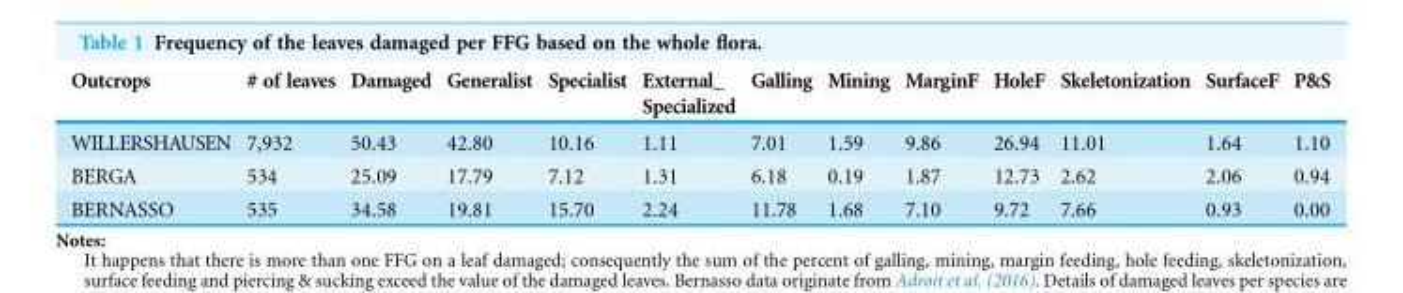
<table><thead><tr><td>Outcrops</td><td># of leaves</td><td>Damaged</td><td>Generalist</td><td>Specialist</td><td>External_ Specialized</td><td>Galling</td><td>Mining</td><td>MarginF</td><td>HoleF</td><td>Skeletonization</td><td>SurfaceF</td><td>P&amp;S</td></tr></thead><tbody><tr><td>WILLERSHAUSEN</td><td>7,932</td><td>50.43</td><td>42.80</td><td>10.16</td><td>1.11</td><td>7.01</td><td>1.59</td><td>9.86</td><td>26.94</td><td>11.01</td><td>1.64</td><td>1.10</td></tr><tr><td>BERGA</td><td>534</td><td>25.09</td><td>17.79</td><td>7.12</td><td>1.31</td><td>6.18</td><td>0.19</td><td>1.87</td><td>12.73</td><td>2.62</td><td>2.06</td><td>0.94</td></tr><tr><td>BERNASSO</td><td>535</td><td>34.58</td><td>19.81</td><td>15.70</td><td>2.24</td><td>11.78</td><td>1.68</td><td>7.10</td><td>9.72</td><td>7.66</td><td>0.93</td><td>0.00</td></tr></tbody></table>